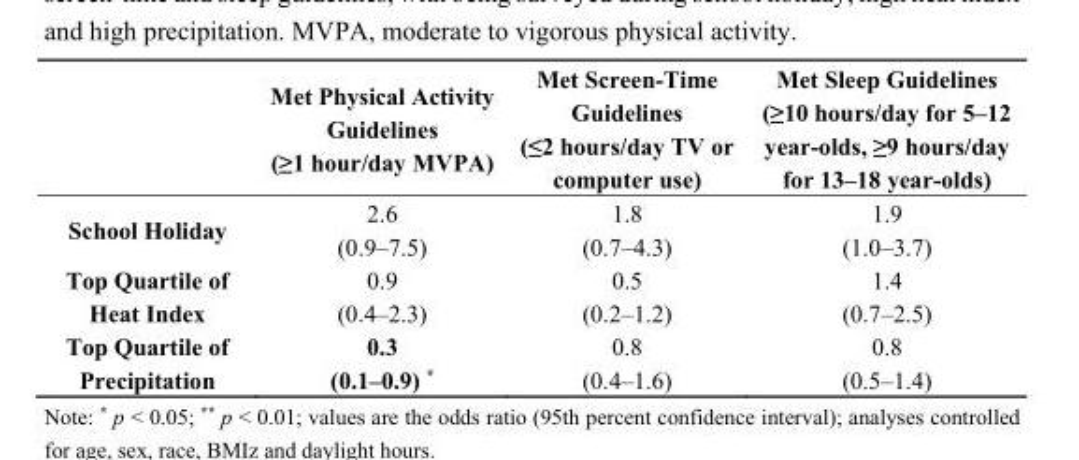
<table><thead><tr><td></td><td>Met Physical Activity Guidelines (≥1 hour/day MVPA)</td><td>Met Screen-Time Guidelines (≤2 hours/day TV or computer use)</td><td>Met Sleep Guidelines (≥10 hours/day for 5–12 year-olds, ≥9 hours/day for 13–18 year-olds)</td></tr></thead><tbody><tr><td>School Holiday</td><td>2.6 (0.9–7.5)</td><td>1.8 (0.7–4.3)</td><td>1.9 (1.0–3.7)</td></tr><tr><td>Top Quartile of Heat Index</td><td>0.9 (0.4–2.3)</td><td>0.5 (0.2–1.2)</td><td>1.4 (0.7–2.5)</td></tr><tr><td>Top Quartile of Precipitation</td><td>0.3 (0.1–0.9) *</td><td>0.8 (0.4–1.6)</td><td>0.8 (0.5–1.4)</td></tr></tbody></table>